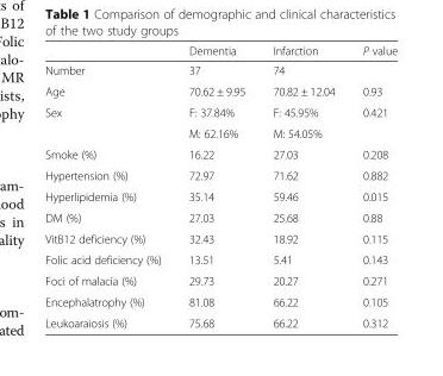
<table><thead><tr><td></td><td>Dementia</td><td>Infarction</td><td>P value</td></tr></thead><tbody><tr><td>Number</td><td>37</td><td>74</td><td></td></tr><tr><td>Age</td><td>70.62 ± 9.95</td><td>70.82 ± 12.04</td><td>0.93</td></tr><tr><td rowspan="2">Sex</td><td>F: 37.84%</td><td>F: 45.95%</td><td rowspan="2">0.421</td></tr><tr><td>M: 62.16%</td><td>M: 54.05%</td></tr><tr><td>Smoke (%)</td><td>16.22</td><td>27.03</td><td>0.208</td></tr><tr><td>Hypertension (%)</td><td>72.97</td><td>71.62</td><td>0.882</td></tr><tr><td>Hyperlipidemia (%)</td><td>35.14</td><td>59.46</td><td>0.015</td></tr><tr><td>DM (%)</td><td>27.03</td><td>25.68</td><td>0.88</td></tr><tr><td>VitB12 deficiency (%)</td><td>32.43</td><td>18.92</td><td>0.115</td></tr><tr><td>Folic acid deficiency (%)</td><td>13.51</td><td>5.41</td><td>0.143</td></tr><tr><td>Foci of malacia (%)</td><td>29.73</td><td>20.27</td><td>0.271</td></tr><tr><td>Encephalatrophy (%)</td><td>81.08</td><td>66.22</td><td>0.105</td></tr><tr><td>Leukoaraiosis (%)</td><td>75.68</td><td>66.22</td><td>0.312</td></tr></tbody></table>